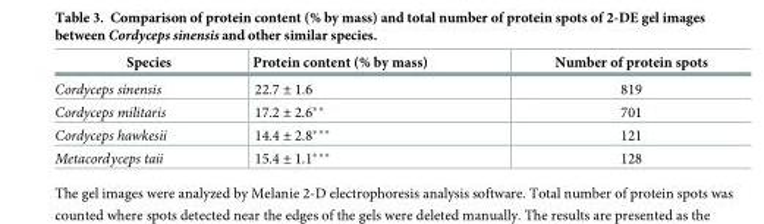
<table><thead><tr><td>Species</td><td>Protein content (% by mass)</td><td>Number of protein spots</td></tr></thead><tbody><tr><td>Cordyceps sinensis</td><td>22.7 ± 1.6</td><td>819</td></tr><tr><td>Cordyceps militaris</td><td>17.2 ± 2.6**</td><td>701</td></tr><tr><td>Cordyceps hawkesii</td><td>14.4 ± 2.8***</td><td>121</td></tr><tr><td>Metacordyceps taii</td><td>15.4 ± 1.1***</td><td>128</td></tr></tbody></table>